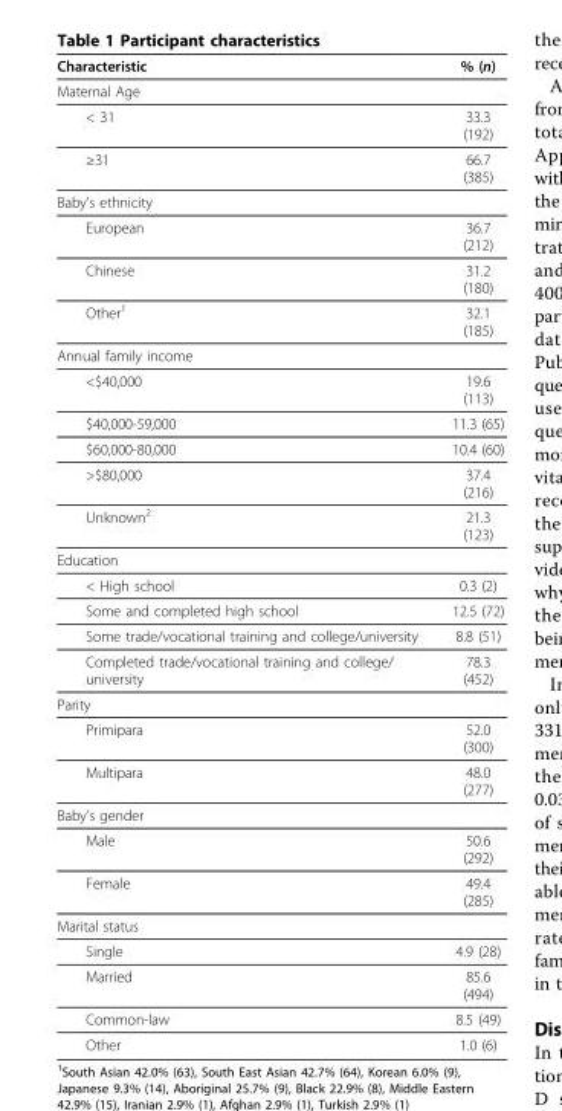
<table><thead><tr><td>Characteristic</td><td>% (n)</td></tr></thead><tbody><tr><td colspan="2">Maternal Age</td></tr><tr><td>&lt; 31</td><td>33.3 (192)</td></tr><tr><td>≥31</td><td>66.7 (385)</td></tr><tr><td colspan="2">Baby’s ethnicity</td></tr><tr><td>European</td><td>36.7 (212)</td></tr><tr><td>Chinese</td><td>31.2 (180)</td></tr><tr><td>Other<sup>1</sup></td><td>32.1 (185)</td></tr><tr><td colspan="2">Annual family income</td></tr><tr><td>&lt;$40,000</td><td>19.6 (113)</td></tr><tr><td>$40,000-59,000</td><td>11.3 (65)</td></tr><tr><td>$60,000-80,000</td><td>10.4 (60)</td></tr><tr><td>&gt;$80,000</td><td>37.4 (216)</td></tr><tr><td>Unknown<sup>2</sup></td><td>21.3 (123)</td></tr><tr><td colspan="2">Education</td></tr><tr><td>&lt; High school</td><td>0.3 (2)</td></tr><tr><td>Some and completed high school</td><td>12.5 (72)</td></tr><tr><td>Some trade/vocational training and college/university</td><td>8.8 (51)</td></tr><tr><td>Completed trade/vocational training and college/ university</td><td>78.3 (452)</td></tr><tr><td colspan="2">Parity</td></tr><tr><td>Primipara</td><td>52.0 (300)</td></tr><tr><td>Multipara</td><td>48.0 (277)</td></tr><tr><td colspan="2">Baby’s gender</td></tr><tr><td>Male</td><td>50.6 (292)</td></tr><tr><td>Female</td><td>49.4 (285)</td></tr><tr><td colspan="2">Marital status</td></tr><tr><td>Single</td><td>4.9 (28)</td></tr><tr><td>Married</td><td>85.6 (494)</td></tr><tr><td>Common-law</td><td>8.5 (49)</td></tr><tr><td>Other</td><td>1.0 (6)</td></tr></tbody></table>